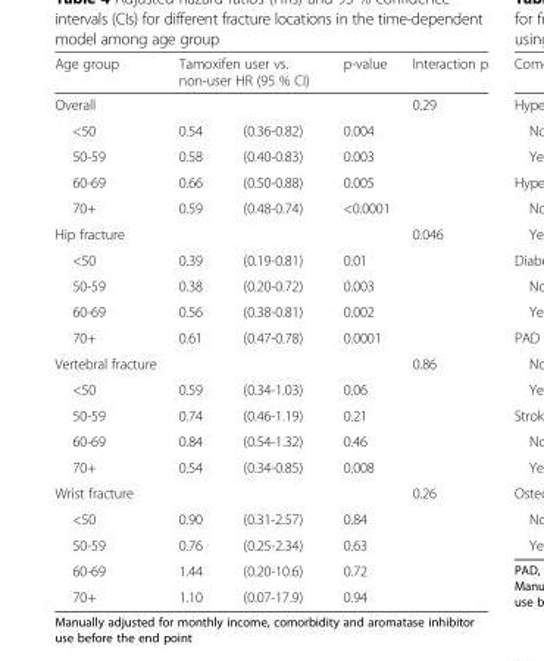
<table><thead><tr><td rowspan="2">Age group Overall</td><td colspan="2">Tamoxifen user vs. non-user HR (95 % CI)</td><td rowspan="2">p-value</td><td rowspan="2">Interaction p 0.29</td></tr><tr><td></td><td></td></tr></thead><tbody><tr><td>&lt;50</td><td>0.54</td><td>(0.36-0.82)</td><td>0.004</td><td></td></tr><tr><td>50-59</td><td>0.58</td><td>(0.40-0.83)</td><td>0.003</td><td></td></tr><tr><td>60-69</td><td>0.66</td><td>(0.50-0.88)</td><td>0.005</td><td></td></tr><tr><td>70+</td><td>0.59</td><td>(0.48-0.74)</td><td>&lt;0.0001</td><td></td></tr><tr><td>Hip fracture</td><td></td><td></td><td></td><td>0.046</td></tr><tr><td>&lt;50</td><td>0.39</td><td>(0.19-0.81)</td><td>0.01</td><td></td></tr><tr><td>50-59</td><td>0.38</td><td>(0.20-0.72)</td><td>0.003</td><td></td></tr><tr><td>60-69</td><td>0.56</td><td>(0.38-0.81)</td><td>0.002</td><td></td></tr><tr><td>70+</td><td>0.61</td><td>(0.47-0.78)</td><td>0.0001</td><td></td></tr><tr><td>Vertebral fracture</td><td></td><td></td><td></td><td>0.86</td></tr><tr><td>&lt;50</td><td>0.59</td><td>(0.34-1.03)</td><td>0.06</td><td></td></tr><tr><td>50-59</td><td>0.74</td><td>(0.46-1.19)</td><td>0.21</td><td></td></tr><tr><td>60-69</td><td>0.84</td><td>(0.54-1.32)</td><td>0.46</td><td></td></tr><tr><td>70+</td><td>0.54</td><td>(0.34-0.85)</td><td>0.008</td><td></td></tr><tr><td>Wrist fracture</td><td></td><td></td><td></td><td>0.26</td></tr><tr><td>&lt;50</td><td>0.90</td><td>(0.31-2.57)</td><td>0.84</td><td></td></tr><tr><td>50-59</td><td>0.76</td><td>(0.25-2.34)</td><td>0.63</td><td></td></tr><tr><td>60-69</td><td>1.44</td><td>(0.20-10.6)</td><td>0.72</td><td></td></tr><tr><td>70+</td><td>1.10</td><td>(0.07-17.9)</td><td>0.94</td><td></td></tr></tbody></table>